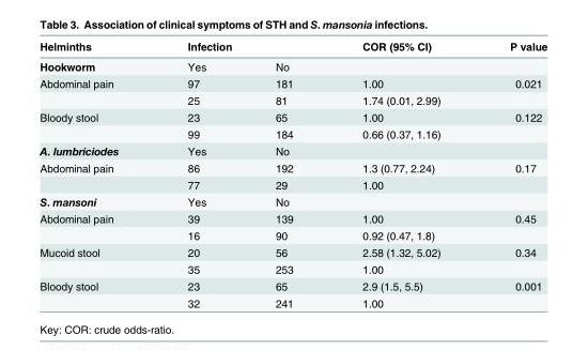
<table><thead><tr><td rowspan="2">Helminths Hookworm</td><td colspan="2">Infection</td><td rowspan="2">COR (95% CI)</td><td rowspan="2">P value</td></tr><tr><td>Yes</td><td>No</td></tr></thead><tbody><tr><td rowspan="2">Abdominal pain</td><td>97</td><td>181</td><td>1.00</td><td>0.021</td></tr><tr><td>25</td><td>81</td><td>1.74 (0.01, 2.99)</td><td></td></tr><tr><td rowspan="2">Bloody stool</td><td>23</td><td>65</td><td>1.00</td><td>0.122</td></tr><tr><td>99</td><td>184</td><td>0.66 (0.37, 1.16)</td><td></td></tr><tr><td>A. lumbriciodes</td><td>Yes</td><td>No</td><td></td><td></td></tr><tr><td rowspan="2">Abdominal pain</td><td>86</td><td>192</td><td>1.3 (0.77, 2.24)</td><td>0.17</td></tr><tr><td>77</td><td>29</td><td>1.00</td><td></td></tr><tr><td>S. mansoni</td><td>Yes</td><td>No</td><td></td><td></td></tr><tr><td rowspan="2">Abdominal pain</td><td>39</td><td>139</td><td>1.00</td><td>0.45</td></tr><tr><td>16</td><td>90</td><td>0.92 (0.47, 1.8)</td><td></td></tr><tr><td rowspan="2">Mucoid stool</td><td>20</td><td>56</td><td>2.58 (1.32, 5.02)</td><td>0.34</td></tr><tr><td>35</td><td>253</td><td>1.00</td><td></td></tr><tr><td rowspan="2">Bloody stool</td><td>23</td><td>65</td><td>2.9 (1.5, 5.5)</td><td>0.001</td></tr><tr><td>32</td><td>241</td><td>1.00</td><td></td></tr></tbody></table>